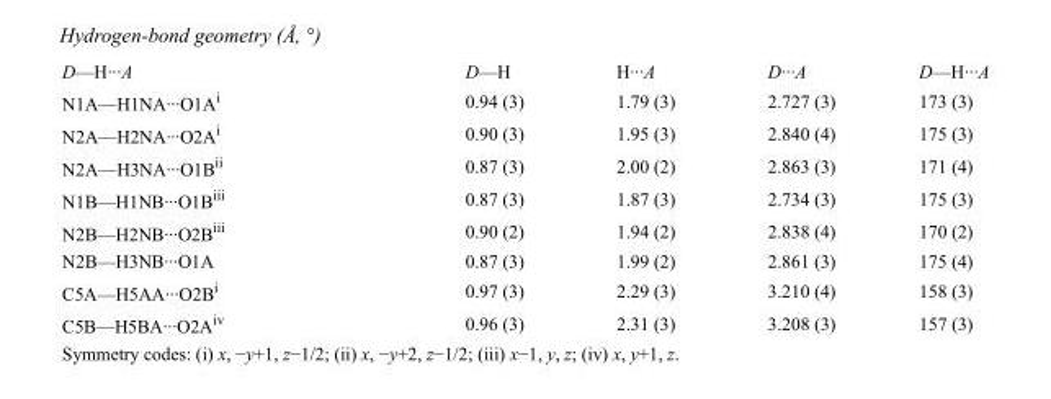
<table><tbody><tr><td>D—H···A</td><td>D—H</td><td>H···A</td><td>D···A</td><td>D—H···A</td></tr><tr><td>N1A—H1NA···O1A<sup>i</sup></td><td>0.94 (3)</td><td>1.79 (3)</td><td>2.727 (3)</td><td>173 (3)</td></tr><tr><td>N2A—H2NA···O2A<sup>i</sup></td><td>0.90 (3)</td><td>1.95 (3)</td><td>2.840 (4)</td><td>175 (3)</td></tr><tr><td>N2A—H3NA···O1B<sup>ii</sup></td><td>0.87 (3)</td><td>2.00 (2)</td><td>2.863 (3)</td><td>171 (4)</td></tr><tr><td>N1B—H1NB···O1B<sup>iii</sup></td><td>0.87 (3)</td><td>1.87 (3)</td><td>2.734 (3)</td><td>175 (3)</td></tr><tr><td>N2B—H2NB···O2B<sup>iii</sup></td><td>0.90 (2)</td><td>1.94 (2)</td><td>2.838 (4)</td><td>170 (2)</td></tr><tr><td>N2B—H3NB···O1A</td><td>0.87 (3)</td><td>1.99 (2)</td><td>2.861 (3)</td><td>175 (4)</td></tr><tr><td>C5A—H5AA···O2B<sup>i</sup></td><td>0.97 (3)</td><td>2.29 (3)</td><td>3.210 (4)</td><td>158 (3)</td></tr><tr><td>C5B—H5BA···O2A<sup>iv</sup></td><td>0.96 (3)</td><td>2.31 (3)</td><td>3.208 (3)</td><td>157 (3)</td></tr></tbody></table>